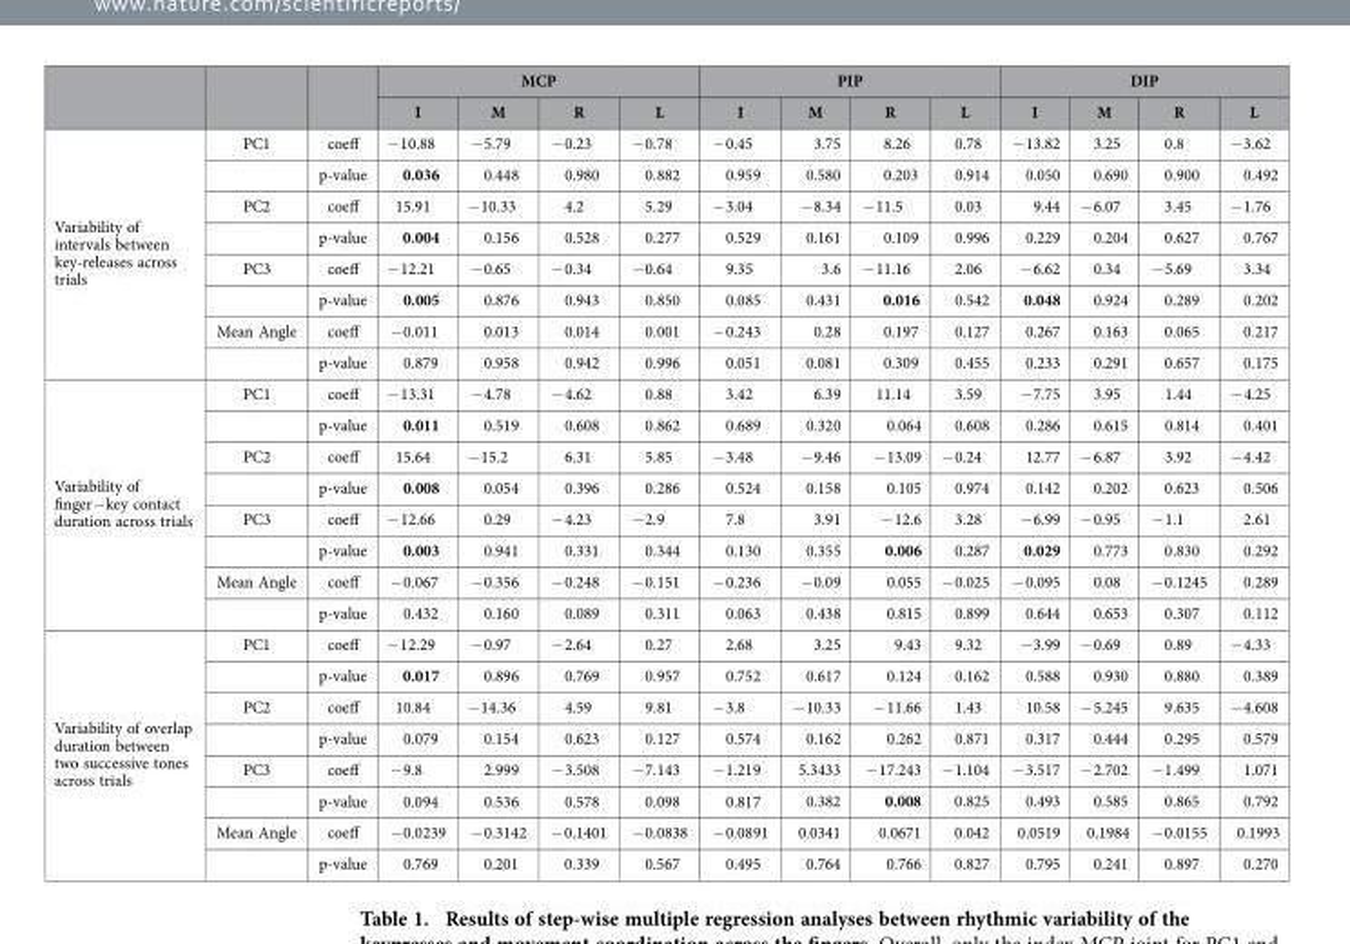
<table><thead><tr><td rowspan="2"></td><td rowspan="2"></td><td rowspan="2"></td><td colspan="4">MCP</td><td colspan="4">PIP</td><td colspan="4">DIP</td></tr><tr><td>I</td><td>M</td><td>R</td><td>L</td><td>I</td><td>M</td><td>R</td><td>L</td><td>I</td><td>M</td><td>R</td><td>L</td></tr></thead><tbody><tr><td rowspan="8">Variability of intervals between key-releases across trials</td><td>PC1</td><td>coeff</td><td>− 10.88</td><td>− 5.79</td><td>− 0.23</td><td>− 0.78</td><td>− 0.45</td><td>3.75</td><td>8.26</td><td>0.78</td><td>− 13.82</td><td>3.25</td><td>0.8</td><td>− 3.62</td></tr><tr><td></td><td>p-value</td><td>0.036</td><td>0.448</td><td>0.980</td><td>0.882</td><td>0.959</td><td>0.580</td><td>0.203</td><td>0.914</td><td>0.050</td><td>0.690</td><td>0.900</td><td>0.492</td></tr><tr><td>PC2</td><td>coeff</td><td>15.91</td><td>− 10.33</td><td>4.2</td><td>5.29</td><td>− 3.04</td><td>− 8.34</td><td>− 11.5</td><td>0.03</td><td>9.44</td><td>− 6.07</td><td>3.45</td><td>− 1.76</td></tr><tr><td></td><td>p-value</td><td>0.004</td><td>0.156</td><td>0.528</td><td>0.277</td><td>0.529</td><td>0.161</td><td>0.109</td><td>0.996</td><td>0.229</td><td>0.204</td><td>0.627</td><td>0.767</td></tr><tr><td>PC3</td><td>coeff</td><td>− 12.21</td><td>− 0.65</td><td>− 0.34</td><td>− 0.64</td><td>9.35</td><td>3.6</td><td>− 11.16</td><td>2.06</td><td>− 6.62</td><td>0.34</td><td>− 5.69</td><td>3.34</td></tr><tr><td></td><td>p-value</td><td>0.005</td><td>0.876</td><td>0.943</td><td>0.850</td><td>0.085</td><td>0.431</td><td>0.016</td><td>0.542</td><td>0.048</td><td>0.924</td><td>0.289</td><td>0.202</td></tr><tr><td>Mean Angle</td><td>coeff</td><td>− 0.011</td><td>0.013</td><td>0.014</td><td>0.001</td><td>− 0.243</td><td>0.28</td><td>0.197</td><td>0.127</td><td>0.267</td><td>0.163</td><td>0.065</td><td>0.217</td></tr><tr><td></td><td>p-value</td><td>0.879</td><td>0.958</td><td>0.942</td><td>0.996</td><td>0.051</td><td>0.081</td><td>0.309</td><td>0.455</td><td>0.233</td><td>0.291</td><td>0.657</td><td>0.175</td></tr><tr><td rowspan="8">Variability of finger− key contact duration across trials</td><td>PC1</td><td>coeff</td><td>− 13.31</td><td>− 4.78</td><td>− 4.62</td><td>0.88</td><td>3.42</td><td>6.39</td><td>11.14</td><td>3.59</td><td>− 7.75</td><td>3.95</td><td>1.44</td><td>− 4.25</td></tr><tr><td></td><td>p-value</td><td>0.011</td><td>0.519</td><td>0.608</td><td>0.862</td><td>0.689</td><td>0.320</td><td>0.064</td><td>0.608</td><td>0.286</td><td>0.615</td><td>0.814</td><td>0.401</td></tr><tr><td>PC2</td><td>coeff</td><td>15.64</td><td>− 15.2</td><td>6.31</td><td>5.85</td><td>− 3.48</td><td>− 9.46</td><td>− 13.09</td><td>− 0.24</td><td>12.77</td><td>− 6.87</td><td>3.92</td><td>− 4.42</td></tr><tr><td></td><td>p-value</td><td>0.008</td><td>0.054</td><td>0.396</td><td>0.286</td><td>0.524</td><td>0.158</td><td>0.105</td><td>0.974</td><td>0.142</td><td>0.202</td><td>0.623</td><td>0.506</td></tr><tr><td>PC3</td><td>coeff</td><td>− 12.66</td><td>0.29</td><td>− 4.23</td><td>− 2.9</td><td>7.8</td><td>3.91</td><td>− 12.6</td><td>3.28</td><td>− 6.99</td><td>− 0.95</td><td>− 1.1</td><td>2.61</td></tr><tr><td></td><td>p-value</td><td>0.003</td><td>0.941</td><td>0.331</td><td>0.344</td><td>0.130</td><td>0.355</td><td>0.006</td><td>0.287</td><td>0.029</td><td>0.773</td><td>0.830</td><td>0.292</td></tr><tr><td>Mean Angle</td><td>coeff</td><td>− 0.067</td><td>− 0.356</td><td>− 0.248</td><td>− 0.151</td><td>− 0.236</td><td>− 0.09</td><td>0.055</td><td>− 0.025</td><td>− 0.095</td><td>0.08</td><td>− 0.1245</td><td>0.289</td></tr><tr><td></td><td>p-value</td><td>0.432</td><td>0.160</td><td>0.089</td><td>0.311</td><td>0.063</td><td>0.438</td><td>0.815</td><td>0.899</td><td>0.644</td><td>0.653</td><td>0.307</td><td>0.112</td></tr><tr><td rowspan="8">Variability of overlap duration between two successive tones across trials</td><td>PC1</td><td>coeff</td><td>− 12.29</td><td>− 0.97</td><td>− 2.64</td><td>0.27</td><td>2.68</td><td>3.25</td><td>9.43</td><td>9.32</td><td>− 3.99</td><td>− 0.69</td><td>0.89</td><td>− 4.33</td></tr><tr><td></td><td>p-value</td><td>0.017</td><td>0.896</td><td>0.769</td><td>0.957</td><td>0.752</td><td>0.617</td><td>0.124</td><td>0.162</td><td>0.588</td><td>0.930</td><td>0.880</td><td>0.389</td></tr><tr><td>PC2</td><td>coeff</td><td>10.84</td><td>− 14.36</td><td>4.59</td><td>9.81</td><td>− 3.8</td><td>− 10.33</td><td>− 11.66</td><td>1.43</td><td>10.58</td><td>− 5.245</td><td>9.635</td><td>− 4.608</td></tr><tr><td></td><td>p-value</td><td>0.079</td><td>0.154</td><td>0.623</td><td>0.127</td><td>0.574</td><td>0.162</td><td>0.262</td><td>0.871</td><td>0.317</td><td>0.444</td><td>0.295</td><td>0.579</td></tr><tr><td>PC3</td><td>coeff</td><td>− 9.8</td><td>2.999</td><td>− 3.508</td><td>− 7.143</td><td>− 1.219</td><td>5.3433</td><td>− 17.243</td><td>− 1.104</td><td>− 3.517</td><td>− 2.702</td><td>− 1.499</td><td>1.071</td></tr><tr><td></td><td>p-value</td><td>0.094</td><td>0.536</td><td>0.578</td><td>0.098</td><td>0.817</td><td>0.382</td><td>0.008</td><td>0.825</td><td>0.493</td><td>0.585</td><td>0.865</td><td>0.792</td></tr><tr><td>Mean Angle</td><td>coeff</td><td>− 0.0239</td><td>− 0.3142</td><td>− 0.1401</td><td>− 0.0838</td><td>− 0.0891</td><td>0.0341</td><td>0.0671</td><td>0.042</td><td>0.0519</td><td>0.1984</td><td>− 0.0155</td><td>0.1993</td></tr><tr><td></td><td>p-value</td><td>0.769</td><td>0.201</td><td>0.339</td><td>0.567</td><td>0.495</td><td>0.764</td><td>0.766</td><td>0.827</td><td>0.795</td><td>0.241</td><td>0.897</td><td>0.270</td></tr></tbody></table>